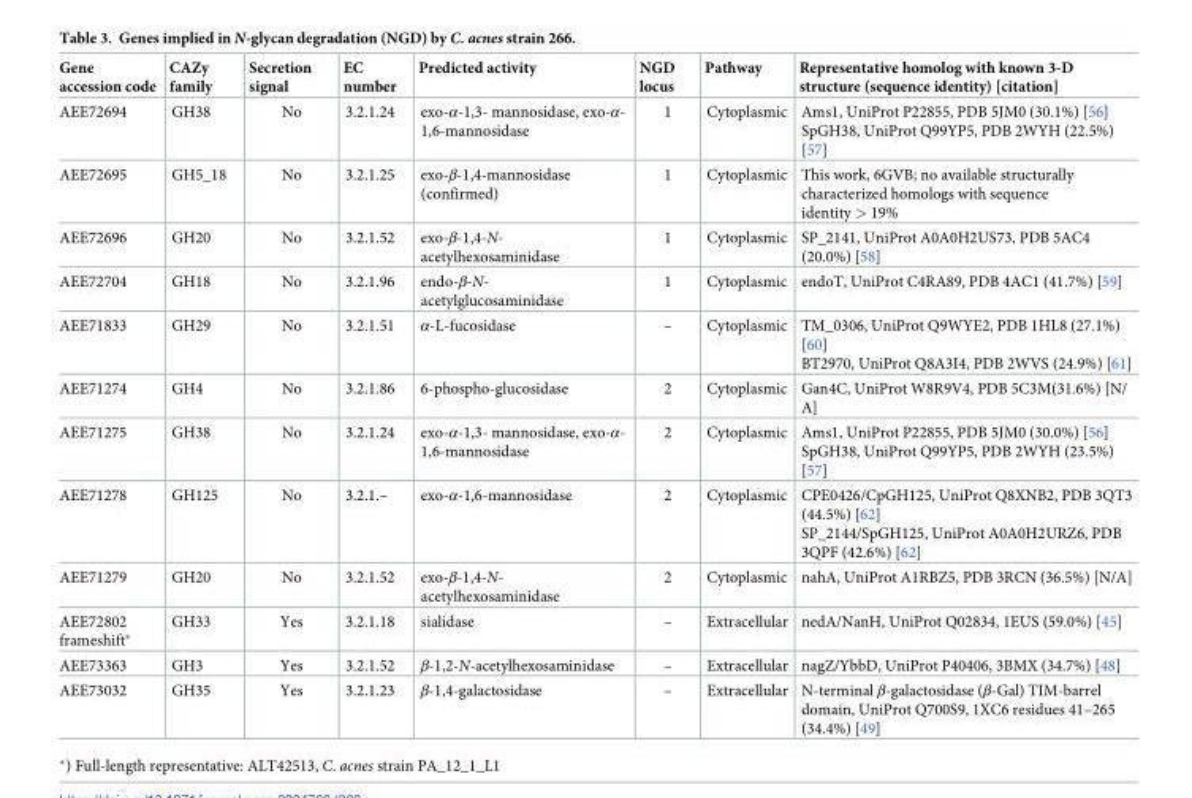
<table><thead><tr><td>Gene accession code</td><td>CAZy family</td><td>Secretion signal</td><td>EC number</td><td>Predicted activity</td><td>NGD locus</td><td>Pathway</td><td>Representative homolog with known 3-D structure (sequence identity) [citation]</td></tr></thead><tbody><tr><td>AEE72694</td><td>GH38</td><td>No</td><td>3.2.1.24</td><td>exo-α-1,3- mannosidase, exo-α- 1,6-mannosidase</td><td>1</td><td>Cytoplasmic</td><td>Ams1, UniProt P22855, PDB 5JM0 (30.1%) [56] SpGH38, UniProt Q99YP5, PDB 2WYH (22.5%) [57]</td></tr><tr><td>AEE72695</td><td>GH5_18</td><td>No</td><td>3.2.1.25</td><td>exo-β-1,4-mannosidase (confirmed)</td><td>1</td><td>Cytoplasmic</td><td>This work, 6GVB; no available structurally characterized homologs with sequence identity &gt; 19%</td></tr><tr><td>AEE72696</td><td>GH20</td><td>No</td><td>3.2.1.52</td><td>exo-β-1,4-N- acetylhexosaminidase</td><td>1</td><td>Cytoplasmic</td><td>SP_2141, UniProt A0A0H2US73, PDB 5AC4 (20.0%) [58]</td></tr><tr><td>AEE72704</td><td>GH18</td><td>No</td><td>3.2.1.96</td><td>endo-β-N- acetylglucosaminidase</td><td>1</td><td>Cytoplasmic</td><td>endoT, UniProt C4RA89, PDB 4AC1 (41.7%) [59]</td></tr><tr><td>AEE71833</td><td>GH29</td><td>No</td><td>3.2.1.51</td><td>α-L-fucosidase</td><td>–</td><td>Cytoplasmic</td><td>TM_0306, UniProt Q9WYE2, PDB 1HL8 (27.1%) [60] BT2970, UniProt Q8A3I4, PDB 2WVS (24.9%) [61]</td></tr><tr><td>AEE71274</td><td>GH4</td><td>No</td><td>3.2.1.86</td><td>6-phospho-glucosidase</td><td>2</td><td>Cytoplasmic</td><td>Gan4C, UniProt W8R9V4, PDB 5C3M(31.6%) [N/ A]</td></tr><tr><td>AEE71275</td><td>GH38</td><td>No</td><td>3.2.1.24</td><td>exo-α-1,3- mannosidase, exo-α- 1,6-mannosidase</td><td>2</td><td>Cytoplasmic</td><td>Ams1, UniProt P22855, PDB 5JM0 (30.0%) [56] SpGH38, UniProt Q99YP5, PDB 2WYH (23.5%) [57]</td></tr><tr><td>AEE71278</td><td>GH125</td><td>No</td><td>3.2.1.–</td><td>exo-α-1,6-mannosidase</td><td>2</td><td>Cytoplasmic</td><td>CPE0426/CpGH125, UniProt Q8XNB2, PDB 3QT3 (44.5%) [62] SP_2144/SpGH125, UniProt A0A0H2URZ6, PDB 3QPF (42.6%) [62]</td></tr><tr><td>AEE71279</td><td>GH20</td><td>No</td><td>3.2.1.52</td><td>exo-β-1,4-N- acetylhexosaminidase</td><td>2</td><td>Cytoplasmic</td><td>nahA, UniProt A1RBZ5, PDB 3RCN (36.5%) [N/A]</td></tr><tr><td>AEE72802 frameshift*</td><td>GH33</td><td>Yes</td><td>3.2.1.18</td><td>sialidase</td><td>–</td><td>Extracellular</td><td>nedA/NanH, UniProt Q02834, 1EUS (59.0%) [45]</td></tr><tr><td>AEE73363</td><td>GH3</td><td>Yes</td><td>3.2.1.52</td><td>β-1,2-N-acetylhexosaminidase</td><td>–</td><td>Extracellular</td><td>nagZ/YbbD, UniProt P40406, 3BMX (34.7%) [48]</td></tr><tr><td>AEE73032</td><td>GH35</td><td>Yes</td><td>3.2.1.23</td><td>β-1,4-galactosidase</td><td>–</td><td>Extracellular</td><td>N-terminal β-galactosidase (β-Gal) TIM-barrel domain, UniProt Q700S9, 1XC6 residues 41–265 (34.4%) [49]</td></tr></tbody></table>